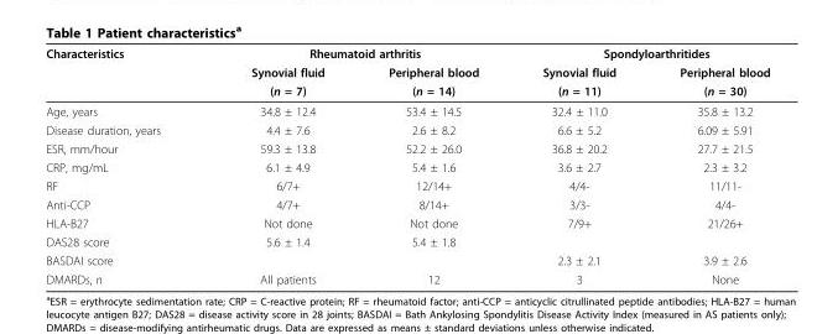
<table><thead><tr><td rowspan="3">Characteristics</td><td colspan="2">Rheumatoid arthritis</td><td colspan="2">Spondyloarthritides</td></tr><tr><td rowspan="2">Synovial fluid (n = 7)</td><td rowspan="2">Peripheral blood (n = 14)</td><td rowspan="2">Synovial fluid (n = 11)</td><td rowspan="2">Peripheral blood (n = 30)</td></tr><tr></tr></thead><tbody><tr><td>Age, years</td><td>34.8 ± 12.4</td><td>53.4 ± 14.5</td><td>32.4 ± 11.0</td><td>35.8 ± 13.2</td></tr><tr><td>Disease duration, years</td><td>4.4 ± 7.6</td><td>2.6 ± 8.2</td><td>6.6 ± 5.2</td><td>6.09 ± 5.91</td></tr><tr><td>ESR, mm/hour</td><td>59.3 ± 13.8</td><td>52.2 ± 26.0</td><td>36.8 ± 20.2</td><td>27.7 ± 21.5</td></tr><tr><td>CRP, mg/mL</td><td>6.1 ± 4.9</td><td>5.4 ± 1.6</td><td>3.6 ± 2.7</td><td>2.3 ± 3.2</td></tr><tr><td>RF</td><td>6/7+</td><td>12/14+</td><td>4/4-</td><td>11/11-</td></tr><tr><td>Anti-CCP</td><td>4/7+</td><td>8/14+</td><td>3/3-</td><td>4/4-</td></tr><tr><td>HLA-B27</td><td>Not done</td><td>Not done</td><td>7/9+</td><td>21/26+</td></tr><tr><td>DAS28 score</td><td>5.6 ± 1.4</td><td>5.4 ± 1.8</td><td></td><td></td></tr><tr><td>BASDAI score</td><td></td><td></td><td>2.3 ± 2.1</td><td>3.9 ± 2.6</td></tr><tr><td>DMARDs, n</td><td>All patients</td><td>12</td><td>3</td><td>None</td></tr></tbody></table>